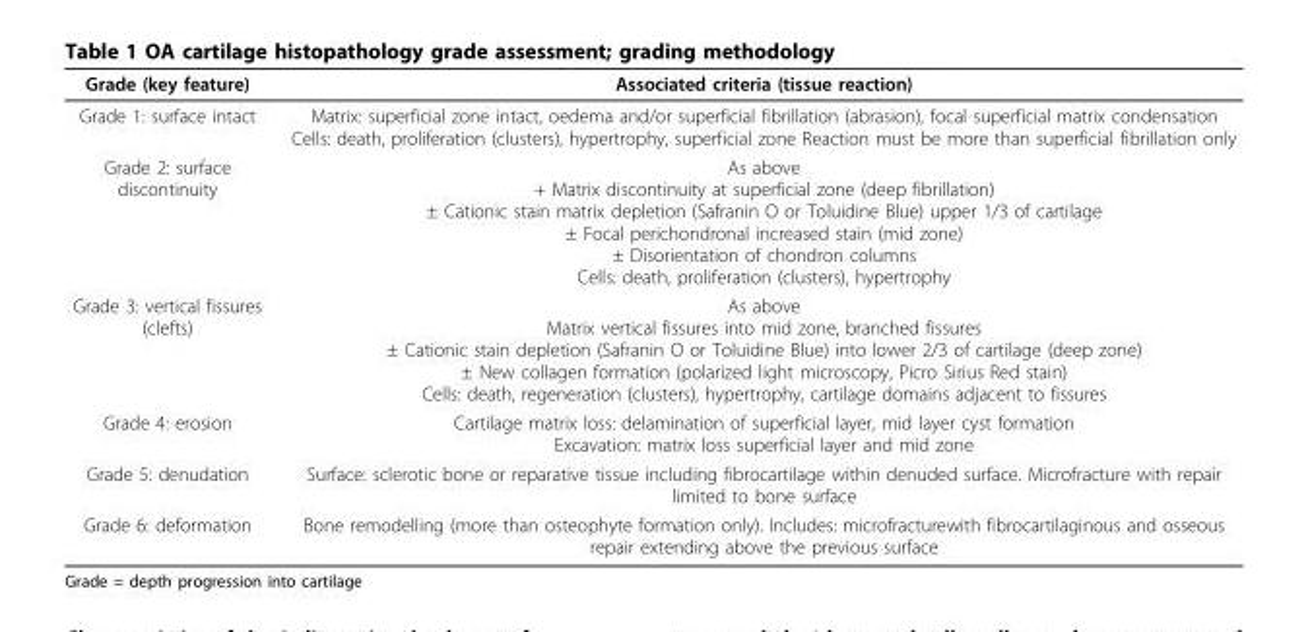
<table><thead><tr><td>Grade (key feature)</td><td>Associated criteria (tissue reaction)</td></tr></thead><tbody><tr><td>Grade 1: surface intact</td><td>Matrix: superficial zone intact, oedema and/or superficial fibrillation (abrasion), focal superficial matrix condensation Cells: death, proliferation (clusters), hypertrophy, superficial zone Reaction must be more than superficial fibrillation only</td></tr><tr><td>Grade 2: surface discontinuity</td><td>As above + Matrix discontinuity at superficial zone (deep fibrillation) ± Cationic stain matrix depletion (Safranin O or Toluidine Blue) upper 1/3 of cartilage ± Focal perichondronal increased stain (mid zone) ± Disorientation of chondron columns Cells: death, proliferation (clusters), hypertrophy</td></tr><tr><td>Grade 3: vertical fissures (clefts)</td><td>As above Matrix vertical fissures into mid zone, branched fissures ± Cationic stain depletion (Safranin O or Toluidine Blue) into lower 2/3 of cartilage (deep zone) ± New collagen formation (polarized light microscopy, Picro Sirius Red stain) Cells: death, regeneration (clusters), hypertrophy, cartilage domains adjacent to fissures</td></tr><tr><td>Grade 4: erosion</td><td>Cartilage matrix loss: delamination of superficial layer, mid layer cyst formation Excavation: matrix loss superficial layer and mid zone</td></tr><tr><td>Grade 5: denudation</td><td>Surface: sclerotic bone or reparative tissue including fibrocartilage within denuded surface. Microfracture with repair limited to bone surface</td></tr><tr><td>Grade 6: deformation</td><td>Bone remodelling (more than osteophyte formation only). Includes: microfracturewith fibrocartilaginous and osseous repair extending above the previous surface</td></tr></tbody></table>